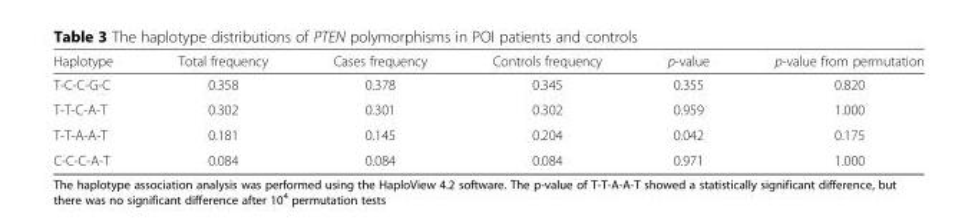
<table><thead><tr><td>Haplotype</td><td>Total frequency</td><td>Cases frequency</td><td>Controls frequency</td><td>p-value</td><td>p-value from permutation</td></tr></thead><tbody><tr><td>T-C-C-G-C</td><td>0.358</td><td>0.378</td><td>0.345</td><td>0.355</td><td>0.820</td></tr><tr><td>T-T-C-A-T</td><td>0.302</td><td>0.301</td><td>0.302</td><td>0.959</td><td>1.000</td></tr><tr><td>T-T-A-A-T</td><td>0.181</td><td>0.145</td><td>0.204</td><td>0.042</td><td>0.175</td></tr><tr><td>C-C-C-A-T</td><td>0.084</td><td>0.084</td><td>0.084</td><td>0.971</td><td>1.000</td></tr></tbody></table>